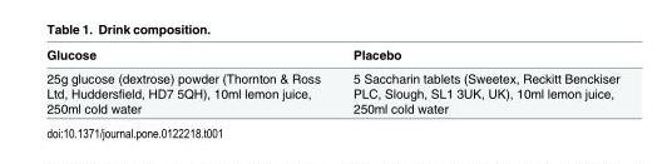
<table><thead><tr><td>Glucose</td><td>Placebo</td></tr></thead><tbody><tr><td>25g glucose (dextrose) powder (Thornton &amp; Ross Ltd, Huddersfield, HD7 5QH), 10ml lemon juice, 250ml cold water</td><td>5 Saccharin tablets (Sweetex, Reckitt Benckiser PLC, Slough, SL1 3UK, UK), 10ml lemon juice, 250ml cold water</td></tr></tbody></table>